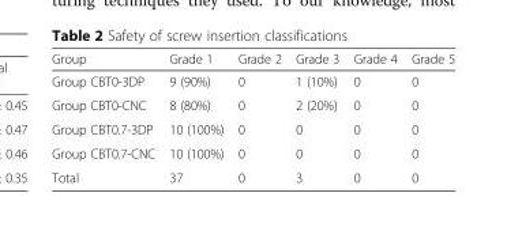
<table><thead><tr><td>Group</td><td>Grade 1</td><td>Grade 2</td><td>Grade 3</td><td>Grade 4</td><td>Grade 5</td></tr></thead><tbody><tr><td>Group CBT0-3DP</td><td>9 (90%)</td><td>0</td><td>1 (10%)</td><td>0</td><td>0</td></tr><tr><td>Group CBT0-CNC</td><td>8 (80%)</td><td>0</td><td>2 (20%)</td><td>0</td><td>0</td></tr><tr><td>Group CBT0.7-3DP</td><td>10 (100%)</td><td>0</td><td>0</td><td>0</td><td>0</td></tr><tr><td>Group CBT0.7-CNC</td><td>10 (100%)</td><td>0</td><td>0</td><td>0</td><td>0</td></tr><tr><td>Total</td><td>37</td><td>0</td><td>3</td><td>0</td><td>0</td></tr></tbody></table>